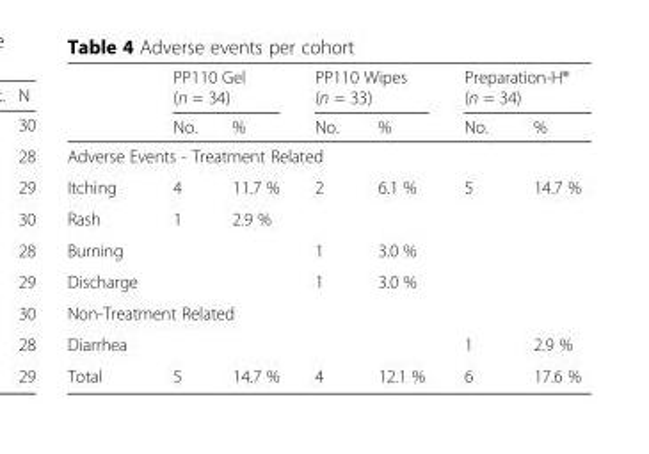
<table><thead><tr><td rowspan="2"></td><td colspan="2">PP110 Gel (n = 34)</td><td colspan="2">PP110 Wipes (n = 33)</td><td colspan="2">Preparation-H® (n = 34)</td></tr><tr><td>No.</td><td>%</td><td>No.</td><td>%</td><td>No.</td><td>%</td></tr></thead><tbody><tr><td colspan="7">Adverse Events - Treatment Related</td></tr><tr><td>Itching</td><td>4</td><td>11.7 %</td><td>2</td><td>6.1 %</td><td>5</td><td>14.7 %</td></tr><tr><td>Rash</td><td>1</td><td>2.9 %</td><td></td><td></td><td></td><td></td></tr><tr><td>Burning</td><td></td><td></td><td>1</td><td>3.0 %</td><td></td><td></td></tr><tr><td>Discharge</td><td></td><td></td><td>1</td><td>3.0 %</td><td></td><td></td></tr><tr><td colspan="7">Non-Treatment Related</td></tr><tr><td>Diarrhea</td><td></td><td></td><td></td><td></td><td>1</td><td>2.9 %</td></tr><tr><td>Total</td><td>5</td><td>14.7 %</td><td>4</td><td>12.1 %</td><td>6</td><td>17.6 %</td></tr></tbody></table>